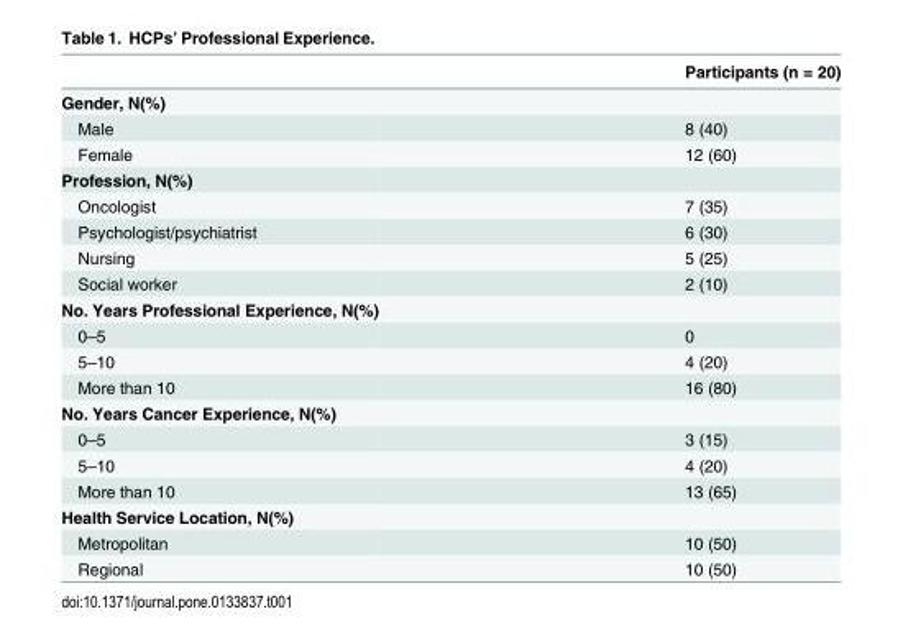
<table><thead><tr><td></td><td>Participants (n = 20)</td></tr></thead><tbody><tr><td colspan="2">Gender, N(%)</td></tr><tr><td>Male</td><td>8 (40)</td></tr><tr><td>Female</td><td>12 (60)</td></tr><tr><td colspan="2">Profession, N(%)</td></tr><tr><td>Oncologist</td><td>7 (35)</td></tr><tr><td>Psychologist/psychiatrist</td><td>6 (30)</td></tr><tr><td>Nursing</td><td>5 (25)</td></tr><tr><td>Social worker</td><td>2 (10)</td></tr><tr><td colspan="2">No. Years Professional Experience, N(%)</td></tr><tr><td>0–5</td><td>0</td></tr><tr><td>5–10</td><td>4 (20)</td></tr><tr><td>More than 10</td><td>16 (80)</td></tr><tr><td colspan="2">No. Years Cancer Experience, N(%)</td></tr><tr><td>0–5</td><td>3 (15)</td></tr><tr><td>5–10</td><td>4 (20)</td></tr><tr><td>More than 10</td><td>13 (65)</td></tr><tr><td colspan="2">Health Service Location, N(%)</td></tr><tr><td>Metropolitan</td><td>10 (50)</td></tr><tr><td>Regional</td><td>10 (50)</td></tr></tbody></table>